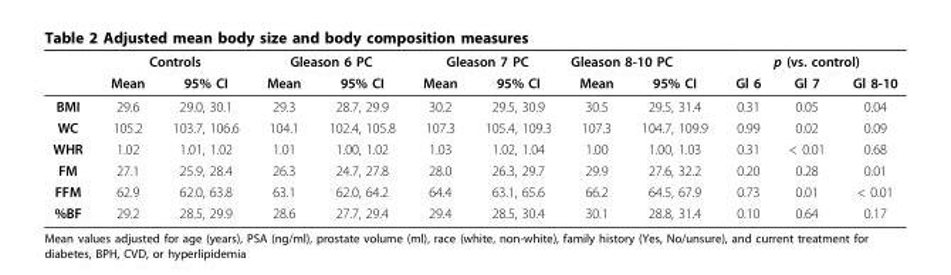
<table><thead><tr><td rowspan="2"></td><td colspan="2">Controls</td><td colspan="2">Gleason 6 PC</td><td colspan="2">Gleason 7 PC</td><td colspan="2">Gleason 8-10 PC</td><td colspan="3">p (vs. control)</td></tr><tr><td>Mean</td><td>95% CI</td><td>Mean</td><td>95% CI</td><td>Mean</td><td>95% CI</td><td>Mean</td><td>95% CI</td><td>Gl 6</td><td>Gl 7</td><td>Gl 8-10</td></tr></thead><tbody><tr><td>BMI</td><td>29.6</td><td>29.0, 30.1</td><td>29.3</td><td>28.7, 29.9</td><td>30.2</td><td>29.5, 30.9</td><td>30.5</td><td>29.5, 31.4</td><td>0.31</td><td>0.05</td><td>0.04</td></tr><tr><td>WC</td><td>105.2</td><td>103.7, 106.6</td><td>104.1</td><td>102.4, 105.8</td><td>107.3</td><td>105.4, 109.3</td><td>107.3</td><td>104.7, 109.9</td><td>0.99</td><td>0.02</td><td>0.09</td></tr><tr><td>WHR</td><td>1.02</td><td>1.01, 1.02</td><td>1.01</td><td>1.00, 1.02</td><td>1.03</td><td>1.02, 1.04</td><td>1.00</td><td>1.00, 1.03</td><td>0.31</td><td>&lt; 0.01</td><td>0.68</td></tr><tr><td>FM</td><td>27.1</td><td>25.9, 28.4</td><td>26.3</td><td>24.7, 27.8</td><td>28.0</td><td>26.3, 29.7</td><td>29.9</td><td>27.6, 32.2</td><td>0.20</td><td>0.28</td><td>0.01</td></tr><tr><td>FFM</td><td>62.9</td><td>62.0, 63.8</td><td>63.1</td><td>62.0, 64.2</td><td>64.4</td><td>63.1, 65.6</td><td>66.2</td><td>64.5, 67.9</td><td>0.73</td><td>0.01</td><td>&lt; 0.01</td></tr><tr><td>%BF</td><td>29.2</td><td>28.5, 29.9</td><td>28.6</td><td>27.7, 29.4</td><td>29.4</td><td>28.5, 30.4</td><td>30.1</td><td>28.8, 31.4</td><td>0.10</td><td>0.64</td><td>0.17</td></tr></tbody></table>